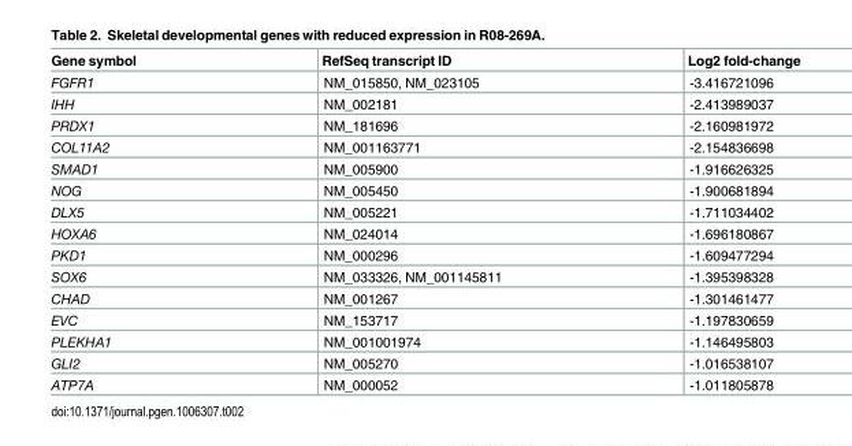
<table><thead><tr><td>Gene symbol</td><td>RefSeq transcript ID</td><td>Log2 fold-change</td></tr></thead><tbody><tr><td>FGFR1</td><td>NM_015850, NM_023105</td><td>-3.416721096</td></tr><tr><td>IHH</td><td>NM_002181</td><td>-2.413989037</td></tr><tr><td>PRDX1</td><td>NM_181696</td><td>-2.160981972</td></tr><tr><td>COL11A2</td><td>NM_001163771</td><td>-2.154836698</td></tr><tr><td>SMAD1</td><td>NM_005900</td><td>-1.916626325</td></tr><tr><td>NOG</td><td>NM_005450</td><td>-1.900681894</td></tr><tr><td>DLX5</td><td>NM_005221</td><td>-1.711034402</td></tr><tr><td>HOXA6</td><td>NM_024014</td><td>-1.696180867</td></tr><tr><td>PKD1</td><td>NM_000296</td><td>-1.609477294</td></tr><tr><td>SOX6</td><td>NM_033326, NM_001145811</td><td>-1.395398328</td></tr><tr><td>CHAD</td><td>NM_001267</td><td>-1.301461477</td></tr><tr><td>EVC</td><td>NM_153717</td><td>-1.197830659</td></tr><tr><td>PLEKHA1</td><td>NM_001001974</td><td>-1.146495803</td></tr><tr><td>GLI2</td><td>NM_005270</td><td>-1.016538107</td></tr><tr><td>ATP7A</td><td>NM_000052</td><td>-1.011805878</td></tr></tbody></table>